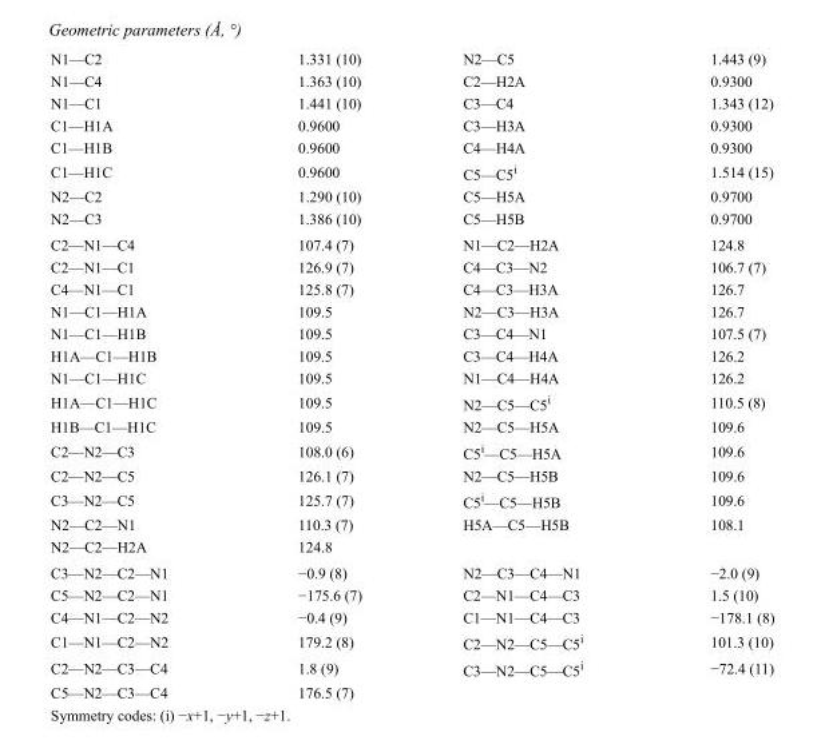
<table><tbody><tr><td>N1—C2</td><td>1.331 (10)</td><td>N2—C5</td><td>1.443 (9)</td></tr><tr><td>N1—C4</td><td>1.363 (10)</td><td>C2—H2A</td><td>0.9300</td></tr><tr><td>N1—C1</td><td>1.441 (10)</td><td>C3—C4</td><td>1.343 (12)</td></tr><tr><td>C1—H1A</td><td>0.9600</td><td>C3—H3A</td><td>0.9300</td></tr><tr><td>C1—H1B</td><td>0.9600</td><td>C4—H4A</td><td>0.9300</td></tr><tr><td>C1—H1C</td><td>0.9600</td><td>C5—C5<sup>i</sup></td><td>1.514 (15)</td></tr><tr><td>N2—C2</td><td>1.290 (10)</td><td>C5—H5A</td><td>0.9700</td></tr><tr><td>N2—C3</td><td>1.386 (10)</td><td>C5—H5B</td><td>0.9700</td></tr><tr><td>C2—N1—C4</td><td>107.4 (7)</td><td>N1—C2—H2A</td><td>124.8</td></tr><tr><td>C2—N1—C1</td><td>126.9 (7)</td><td>C4—C3—N2</td><td>106.7 (7)</td></tr><tr><td>C4—N1—C1</td><td>125.8 (7)</td><td>C4—C3—H3A</td><td>126.7</td></tr><tr><td>N1—C1—H1A</td><td>109.5</td><td>N2—C3—H3A</td><td>126.7</td></tr><tr><td>N1—C1—H1B</td><td>109.5</td><td>C3—C4—N1</td><td>107.5 (7)</td></tr><tr><td>H1A—C1—H1B</td><td>109.5</td><td>C3—C4—H4A</td><td>126.2</td></tr><tr><td>N1—C1—H1C</td><td>109.5</td><td>N1—C4—H4A</td><td>126.2</td></tr><tr><td>H1A—C1—H1C</td><td>109.5</td><td>N2—C5—C5<sup>i</sup></td><td>110.5 (8)</td></tr><tr><td>H1B—C1—H1C</td><td>109.5</td><td>N2—C5—H5A</td><td>109.6</td></tr><tr><td>C2—N2—C3</td><td>108.0 (6)</td><td>C5<sup>i</sup>—C5—H5A</td><td>109.6</td></tr><tr><td>C2—N2—C5</td><td>126.1 (7)</td><td>N2—C5—H5B</td><td>109.6</td></tr><tr><td>C3—N2—C5</td><td>125.7 (7)</td><td>C5<sup>i</sup>—C5—H5B</td><td>109.6</td></tr><tr><td>N2—C2—N1</td><td>110.3 (7)</td><td>H5A—C5—H5B</td><td>108.1</td></tr><tr><td>N2—C2—H2A</td><td>124.8</td><td></td><td></td></tr><tr><td>C3—N2—C2—N1</td><td>−0.9 (8)</td><td>N2—C3—C4—N1</td><td>−2.0 (9)</td></tr><tr><td>C5—N2—C2—N1</td><td>−175.6 (7)</td><td>C2—N1—C4—C3</td><td>1.5 (10)</td></tr><tr><td>C4—N1—C2—N2</td><td>−0.4 (9)</td><td>C1—N1—C4—C3</td><td>−178.1 (8)</td></tr><tr><td>C1—N1—C2—N2</td><td>179.2 (8)</td><td>C2—N2—C5—C5<sup>i</sup></td><td>101.3 (10)</td></tr><tr><td>C2—N2—C3—C4</td><td>1.8 (9)</td><td>C3—N2—C5—C5<sup>i</sup></td><td>−72.4 (11)</td></tr><tr><td>C5—N2—C3—C4</td><td>176.5 (7)</td><td></td><td></td></tr></tbody></table>